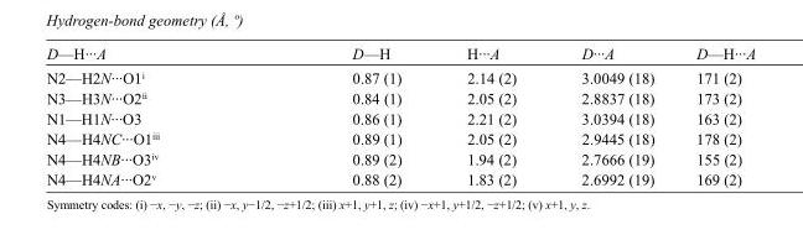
<table><tbody><tr><td>D—H···A</td><td>D—H</td><td>H···A</td><td>D···A</td><td>D—H···A</td></tr><tr><td>N2—H2N···O1<sup>i</sup></td><td>0.87 (1)</td><td>2.14 (2)</td><td>3.0049 (18)</td><td>171 (2)</td></tr><tr><td>N3—H3N···O2<sup>ii</sup></td><td>0.84 (1)</td><td>2.05 (2)</td><td>2.8837 (18)</td><td>173 (2)</td></tr><tr><td>N1—H1N···O3</td><td>0.86 (1)</td><td>2.21 (2)</td><td>3.0394 (18)</td><td>163 (2)</td></tr><tr><td>N4—H4NC···O1<sup>iii</sup></td><td>0.89 (1)</td><td>2.05 (2)</td><td>2.9445 (18)</td><td>178 (2)</td></tr><tr><td>N4—H4NB···O3<sup>iv</sup></td><td>0.89 (2)</td><td>1.94 (2)</td><td>2.7666 (19)</td><td>155 (2)</td></tr><tr><td>N4—H4NA···O2<sup>v</sup></td><td>0.88 (2)</td><td>1.83 (2)</td><td>2.6992 (19)</td><td>169 (2)</td></tr></tbody></table>